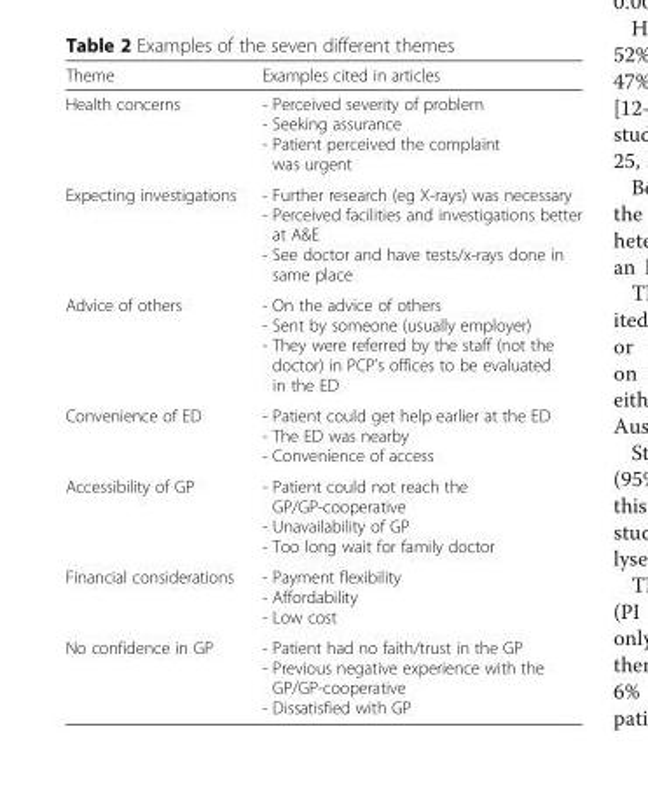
<table><thead><tr><td>Theme</td><td>Examples cited in articles</td></tr></thead><tbody><tr><td>Health concerns</td><td>- Perceived severity of problem - Seeking assurance - Patient perceived the complaint was urgent</td></tr><tr><td>Expecting investigations</td><td>- Further research (eg X-rays) was necessary - Perceived facilities and investigations better at A&amp;E - See doctor and have tests/x-rays done in same place</td></tr><tr><td>Advice of others</td><td>- On the advice of others - Sent by someone (usually employer) - They were referred by the staff (not the doctor) in PCP’s offices to be evaluated in the ED</td></tr><tr><td>Convenience of ED</td><td>- Patient could get help earlier at the ED - The ED was nearby - Convenience of access</td></tr><tr><td>Accessibility of GP</td><td>- Patient could not reach the GP/GP-cooperative - Unavailability of GP - Too long wait for family doctor</td></tr><tr><td>Financial considerations</td><td>- Payment flexibility - Affordability - Low cost</td></tr><tr><td>No confidence in GP</td><td>- Patient had no faith/trust in the GP - Previous negative experience with the GP/GP-cooperative - Dissatisfied with GP</td></tr></tbody></table>